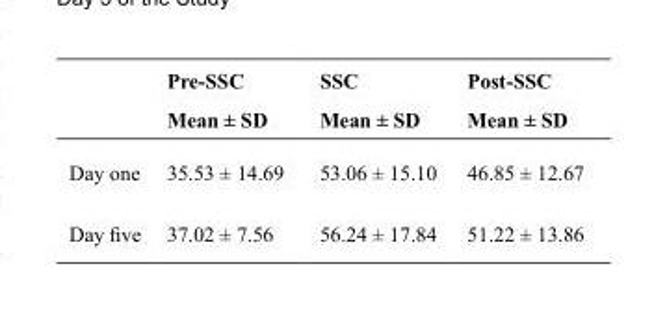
<table><thead><tr><td rowspan="2"></td><td rowspan="2">Pre-SSC Mean ± SD</td><td rowspan="2">SSC Mean ± SD</td><td rowspan="2">Post-SSC Mean ± SD</td></tr><tr></tr></thead><tbody><tr><td>Day one</td><td>35.53 ± 14.69</td><td>53.06 ± 15.10</td><td>46.85 ± 12.67</td></tr><tr><td>Day five</td><td>37.02 ± 7.56</td><td>56.24 ± 17.84</td><td>51.22 ± 13.86</td></tr></tbody></table>